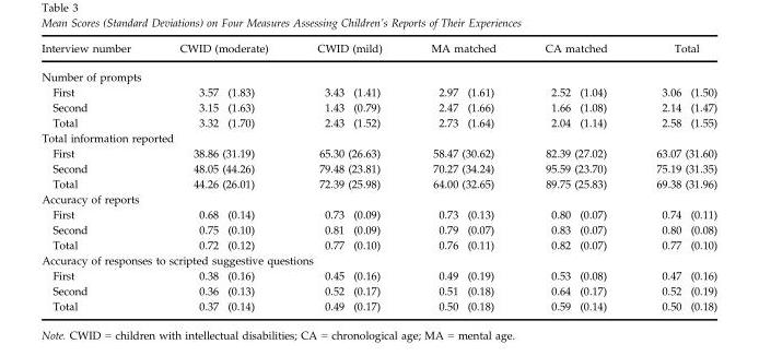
<table><thead><tr><td>Interview number</td><td>CWID (moderate)</td><td>CWID (mild)</td><td>MA matched</td><td>CA matched</td><td>Total</td></tr></thead><tbody><tr><td colspan="6">Number of prompts</td></tr><tr><td>First</td><td>3.57 (1.83)</td><td>3.43 (1.41)</td><td>2.97 (1.61)</td><td>2.52 (1.04)</td><td>3.06 (1.50)</td></tr><tr><td>Second</td><td>3.15 (1.63)</td><td>1.43 (0.79)</td><td>2.47 (1.66)</td><td>1.66 (1.08)</td><td>2.14 (1.47)</td></tr><tr><td>Total</td><td>3.32 (1.70)</td><td>2.43 (1.52)</td><td>2.73 (1.64)</td><td>2.04 (1.14)</td><td>2.58 (1.55)</td></tr><tr><td colspan="6">Total information reported</td></tr><tr><td>First</td><td>38.86 (31.19)</td><td>65.30 (26.63)</td><td>58.47 (30.62)</td><td>82.39 (27.02)</td><td>63.07 (31.60)</td></tr><tr><td>Second</td><td>48.05 (44.26)</td><td>79.48 (23.81)</td><td>70.27 (34.24)</td><td>95.59 (23.70)</td><td>75.19 (31.35)</td></tr><tr><td>Total</td><td>44.26 (26.01)</td><td>72.39 (25.98)</td><td>64.00 (32.65)</td><td>89.75 (25.83)</td><td>69.38 (31.96)</td></tr><tr><td colspan="6">Accuracy of reports</td></tr><tr><td>First</td><td>0.68 (0.14)</td><td>0.73 (0.09)</td><td>0.73 (0.13)</td><td>0.80 (0.07)</td><td>0.74 (0.11)</td></tr><tr><td>Second</td><td>0.75 (0.10)</td><td>0.81 (0.09)</td><td>0.79 (0.07)</td><td>0.83 (0.07)</td><td>0.80 (0.08)</td></tr><tr><td>Total</td><td>0.72 (0.12)</td><td>0.77 (0.10)</td><td>0.76 (0.11)</td><td>0.82 (0.07)</td><td>0.77 (0.10)</td></tr><tr><td colspan="6">Accuracy of responses to scripted suggestive questions</td></tr><tr><td>First</td><td>0.38 (0.16)</td><td>0.45 (0.16)</td><td>0.49 (0.19)</td><td>0.53 (0.08)</td><td>0.47 (0.16)</td></tr><tr><td>Second</td><td>0.36 (0.13)</td><td>0.52 (0.17)</td><td>0.51 (0.18)</td><td>0.64 (0.17)</td><td>0.52 (0.19)</td></tr><tr><td>Total</td><td>0.37 (0.14)</td><td>0.49 (0.17)</td><td>0.50 (0.18)</td><td>0.59 (0.14)</td><td>0.50 (0.18)</td></tr></tbody></table>